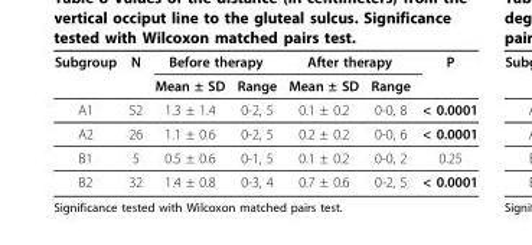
<table><thead><tr><td rowspan="2">Subgroup</td><td rowspan="2">N</td><td colspan="2">Before therapy</td><td colspan="2">After therapy</td><td rowspan="2">P</td></tr><tr><td>Mean ± SD</td><td>Range</td><td>Mean ± SD</td><td>Range</td></tr></thead><tbody><tr><td>A1</td><td>52</td><td>1.3 ± 1.4</td><td>0-2, 5</td><td>0.1 ± 0.2</td><td>0-0, 8</td><td>&lt; 0.0001</td></tr><tr><td>A2</td><td>26</td><td>1.1 ± 0.6</td><td>0-2, 5</td><td>0.2 ± 0.2</td><td>0-0, 6</td><td>&lt; 0.0001</td></tr><tr><td>B1</td><td>5</td><td>0.5 ± 0.6</td><td>0-1, 5</td><td>0.1 ± 0.2</td><td>0-0, 2</td><td>0.25</td></tr><tr><td>B2</td><td>32</td><td>1.4 ± 0.8</td><td>0-3, 4</td><td>0.7 ± 0.6</td><td>0-2, 5</td><td>&lt; 0.0001</td></tr></tbody></table>